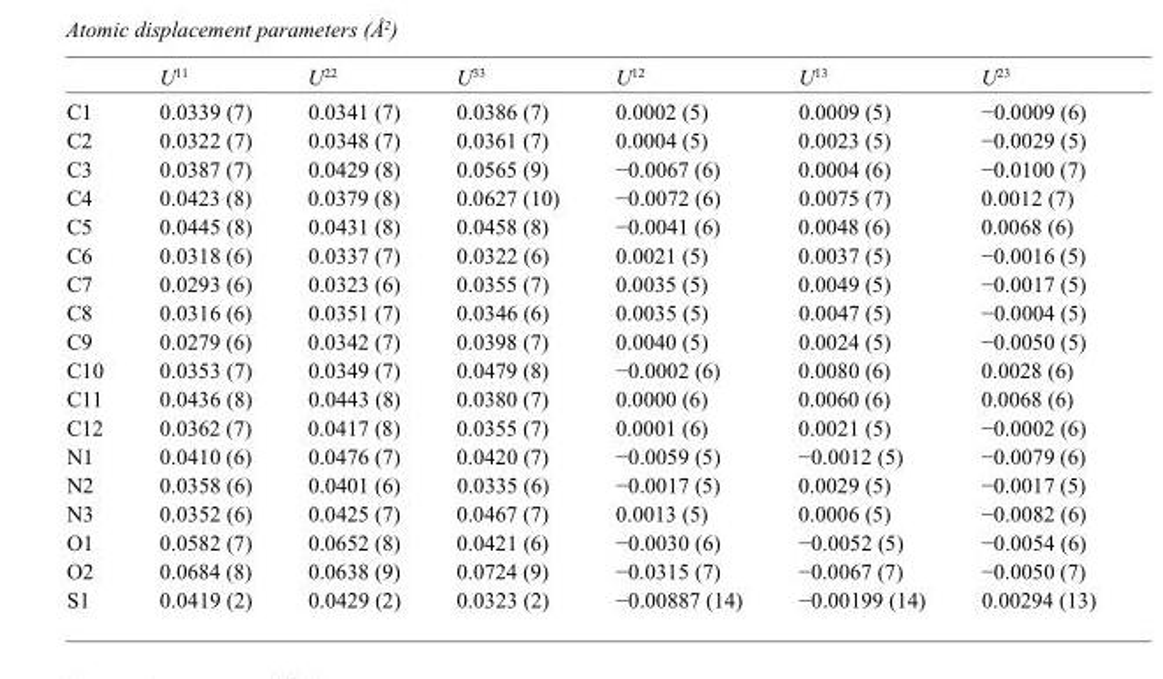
<table><thead><tr><td></td><td>U<sup>11</sup></td><td>U<sup>22</sup></td><td>U<sup>33</sup></td><td>U<sup>12</sup></td><td>U<sup>13</sup></td><td>U<sup>23</sup></td></tr></thead><tbody><tr><td>C1</td><td>0.0339 (7)</td><td>0.0341 (7)</td><td>0.0386 (7)</td><td>0.0002 (5)</td><td>0.0009 (5)</td><td>−0.0009 (6)</td></tr><tr><td>C2</td><td>0.0322 (7)</td><td>0.0348 (7)</td><td>0.0361 (7)</td><td>0.0004 (5)</td><td>0.0023 (5)</td><td>−0.0029 (5)</td></tr><tr><td>C3</td><td>0.0387 (7)</td><td>0.0429 (8)</td><td>0.0565 (9)</td><td>−0.0067 (6)</td><td>0.0004 (6)</td><td>−0.0100 (7)</td></tr><tr><td>C4</td><td>0.0423 (8)</td><td>0.0379 (8)</td><td>0.0627 (10)</td><td>−0.0072 (6)</td><td>0.0075 (7)</td><td>0.0012 (7)</td></tr><tr><td>C5</td><td>0.0445 (8)</td><td>0.0431 (8)</td><td>0.0458 (8)</td><td>−0.0041 (6)</td><td>0.0048 (6)</td><td>0.0068 (6)</td></tr><tr><td>C6</td><td>0.0318 (6)</td><td>0.0337 (7)</td><td>0.0322 (6)</td><td>0.0021 (5)</td><td>0.0037 (5)</td><td>−0.0016 (5)</td></tr><tr><td>C7</td><td>0.0293 (6)</td><td>0.0323 (6)</td><td>0.0355 (7)</td><td>0.0035 (5)</td><td>0.0049 (5)</td><td>−0.0017 (5)</td></tr><tr><td>C8</td><td>0.0316 (6)</td><td>0.0351 (7)</td><td>0.0346 (6)</td><td>0.0035 (5)</td><td>0.0047 (5)</td><td>−0.0004 (5)</td></tr><tr><td>C9</td><td>0.0279 (6)</td><td>0.0342 (7)</td><td>0.0398 (7)</td><td>0.0040 (5)</td><td>0.0024 (5)</td><td>−0.0050 (5)</td></tr><tr><td>C10</td><td>0.0353 (7)</td><td>0.0349 (7)</td><td>0.0479 (8)</td><td>−0.0002 (6)</td><td>0.0080 (6)</td><td>0.0028 (6)</td></tr><tr><td>C11</td><td>0.0436 (8)</td><td>0.0443 (8)</td><td>0.0380 (7)</td><td>0.0000 (6)</td><td>0.0060 (6)</td><td>0.0068 (6)</td></tr><tr><td>C12</td><td>0.0362 (7)</td><td>0.0417 (8)</td><td>0.0355 (7)</td><td>0.0001 (6)</td><td>0.0021 (5)</td><td>−0.0002 (6)</td></tr><tr><td>N1</td><td>0.0410 (6)</td><td>0.0476 (7)</td><td>0.0420 (7)</td><td>−0.0059 (5)</td><td>−0.0012 (5)</td><td>−0.0079 (6)</td></tr><tr><td>N2</td><td>0.0358 (6)</td><td>0.0401 (6)</td><td>0.0335 (6)</td><td>−0.0017 (5)</td><td>0.0029 (5)</td><td>−0.0017 (5)</td></tr><tr><td>N3</td><td>0.0352 (6)</td><td>0.0425 (7)</td><td>0.0467 (7)</td><td>0.0013 (5)</td><td>0.0006 (5)</td><td>−0.0082 (6)</td></tr><tr><td>O1</td><td>0.0582 (7)</td><td>0.0652 (8)</td><td>0.0421 (6)</td><td>−0.0030 (6)</td><td>−0.0052 (5)</td><td>−0.0054 (6)</td></tr><tr><td>O2</td><td>0.0684 (8)</td><td>0.0638 (9)</td><td>0.0724 (9)</td><td>−0.0315 (7)</td><td>−0.0067 (7)</td><td>−0.0050 (7)</td></tr><tr><td>S1</td><td>0.0419 (2)</td><td>0.0429 (2)</td><td>0.0323 (2)</td><td>−0.00887 (14)</td><td>−0.00199 (14)</td><td>0.00294 (13)</td></tr></tbody></table>